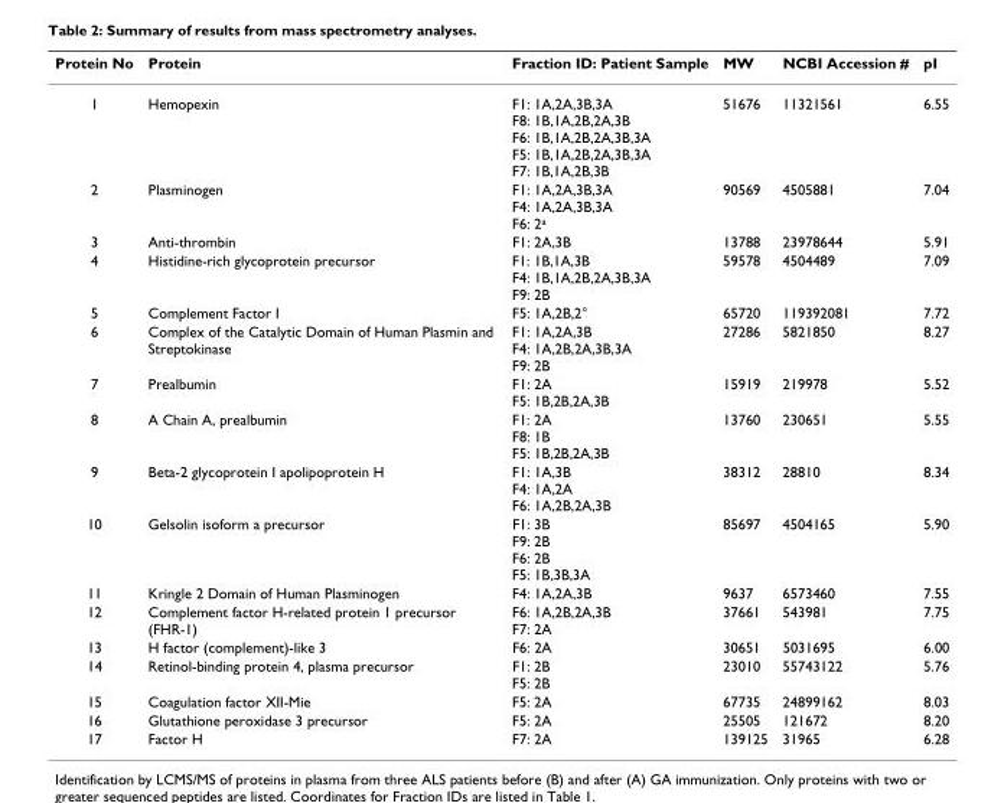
<table><thead><tr><td>Protein No</td><td>Protein</td><td>Fraction ID: Patient Sample</td><td>MW</td><td>NCBI Accession #</td><td>pI</td></tr></thead><tbody><tr><td>1</td><td>Hemopexin</td><td>F1: 1A,2A,3B,3A F8: 1B,1A,2B,2A,3B F6: 1B,1A,2B,2A,3B,3A F5: 1B,1A,2B,2A,3B,3A F7: 1B,1A,2B,3B</td><td>51676</td><td>11321561</td><td>6.55</td></tr><tr><td>2</td><td>Plasminogen</td><td>F1: 1A,2A,3B,3A F4: 1A,2A,3B,3A F6: 2<sup>a</sup></td><td>90569</td><td>4505881</td><td>7.04</td></tr><tr><td>3</td><td>Anti-thrombin</td><td>F1: 2A,3B</td><td>13788</td><td>23978644</td><td>5.91</td></tr><tr><td>4</td><td>Histidine-rich glycoprotein precursor</td><td>F1: 1B,1A,3B F4: 1B,1A,2B,2A,3B,3A F9: 2B</td><td>59578</td><td>4504489</td><td>7.09</td></tr><tr><td>5</td><td>Complement Factor I</td><td>F5: 1A,2B,2°</td><td>65720</td><td>119392081</td><td>7.72</td></tr><tr><td>6</td><td>Complex of the Catalytic Domain of Human Plasmin and Streptokinase</td><td>F1: 1A,2A,3B F4: 1A,2B,2A,3B,3A F9: 2B</td><td>27286</td><td>5821850</td><td>8.27</td></tr><tr><td>7</td><td>Prealbumin</td><td>F1: 2A F5: 1B,2B,2A,3B</td><td>15919</td><td>219978</td><td>5.52</td></tr><tr><td>8</td><td>A Chain A, prealbumin</td><td>F1: 2A F8: 1B F5: 1B,2B,2A,3B</td><td>13760</td><td>230651</td><td>5.55</td></tr><tr><td>9</td><td>Beta-2 glycoprotein I apolipoprotein H</td><td>F1: 1A,3B F4: 1A,2A F6: 1A,2B,2A,3B</td><td>38312</td><td>28810</td><td>8.34</td></tr><tr><td>10</td><td>Gelsolin isoform a precursor</td><td>F1: 3B F9: 2B F6: 2B F5: 1B,3B,3A</td><td>85697</td><td>4504165</td><td>5.90</td></tr><tr><td>11</td><td>Kringle 2 Domain of Human Plasminogen</td><td>F4: 1A,2A,3B</td><td>9637</td><td>6573460</td><td>7.55</td></tr><tr><td>12</td><td>Complement factor H-related protein 1 precursor (FHR-1)</td><td>F6: 1A,2B,2A,3B F7: 2A</td><td>37661</td><td>543981</td><td>7.75</td></tr><tr><td>13</td><td>H factor (complement)-like 3</td><td>F6: 2A</td><td>30651</td><td>5031695</td><td>6.00</td></tr><tr><td>14</td><td>Retinol-binding protein 4, plasma precursor</td><td>F1: 2B F5: 2B</td><td>23010</td><td>55743122</td><td>5.76</td></tr><tr><td>15</td><td>Coagulation factor XII-Mie</td><td>F5: 2A</td><td>67735</td><td>24899162</td><td>8.03</td></tr><tr><td>16</td><td>Glutathione peroxidase 3 precursor</td><td>F5: 2A</td><td>25505</td><td>121672</td><td>8.20</td></tr><tr><td>17</td><td>Factor H</td><td>F7: 2A</td><td>139125</td><td>31965</td><td>6.28</td></tr></tbody></table>